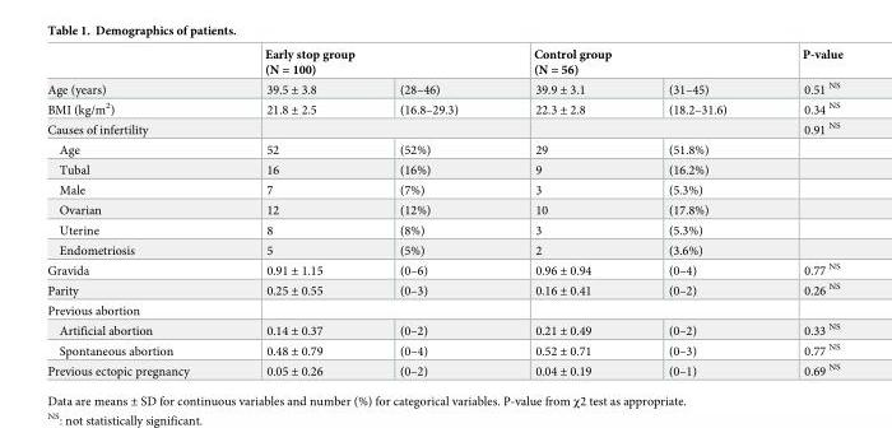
<table><thead><tr><td rowspan="2">Age (years)</td><td colspan="2">Early stop group (N = 100)</td><td colspan="2">Control group (N = 56)</td><td rowspan="2">P-value 0.51 <sup>NS</sup></td></tr><tr><td>39.5 ± 3.8</td><td>(28–46)</td><td>39.9 ± 3.1</td><td>(31–45)</td></tr></thead><tbody><tr><td>BMI (kg/m<sup>2</sup>)</td><td>21.8 ± 2.5</td><td>(16.8–29.3)</td><td>22.3 ± 2.8</td><td>(18.2–31.6)</td><td>0.34 <sup>NS</sup></td></tr><tr><td>Causes of infertility</td><td colspan="2"></td><td colspan="2"></td><td>0.91 <sup>NS</sup></td></tr><tr><td>Age</td><td>52</td><td>(52%)</td><td>29</td><td>(51.8%)</td><td></td></tr><tr><td>Tubal</td><td>16</td><td>(16%)</td><td>9</td><td>(16.2%)</td><td></td></tr><tr><td>Male</td><td>7</td><td>(7%)</td><td>3</td><td>(5.3%)</td><td></td></tr><tr><td>Ovarian</td><td>12</td><td>(12%)</td><td>10</td><td>(17.8%)</td><td></td></tr><tr><td>Uterine</td><td>8</td><td>(8%)</td><td>3</td><td>(5.3%)</td><td></td></tr><tr><td>Endometriosis</td><td>5</td><td>(5%)</td><td>2</td><td>(3.6%)</td><td></td></tr><tr><td>Gravida</td><td>0.91 ± 1.15</td><td>(0–6)</td><td>0.96 ± 0.94</td><td>(0–4)</td><td>0.77 <sup>NS</sup></td></tr><tr><td>Parity</td><td>0.25 ± 0.55</td><td>(0–3)</td><td>0.16 ± 0.41</td><td>(0–2)</td><td>0.26 <sup>NS</sup></td></tr><tr><td colspan="6">Previous abortion</td></tr><tr><td>Artificial abortion</td><td>0.14 ± 0.37</td><td>(0–2)</td><td>0.21 ± 0.49</td><td>(0–2)</td><td>0.33 <sup>NS</sup></td></tr><tr><td>Spontaneous abortion</td><td>0.48 ± 0.79</td><td>(0–4)</td><td>0.52 ± 0.71</td><td>(0–3)</td><td>0.77 <sup>NS</sup></td></tr><tr><td>Previous ectopic pregnancy</td><td>0.05 ± 0.26</td><td>(0–2)</td><td>0.04 ± 0.19</td><td>(0–1)</td><td>0.69 <sup>NS</sup></td></tr></tbody></table>